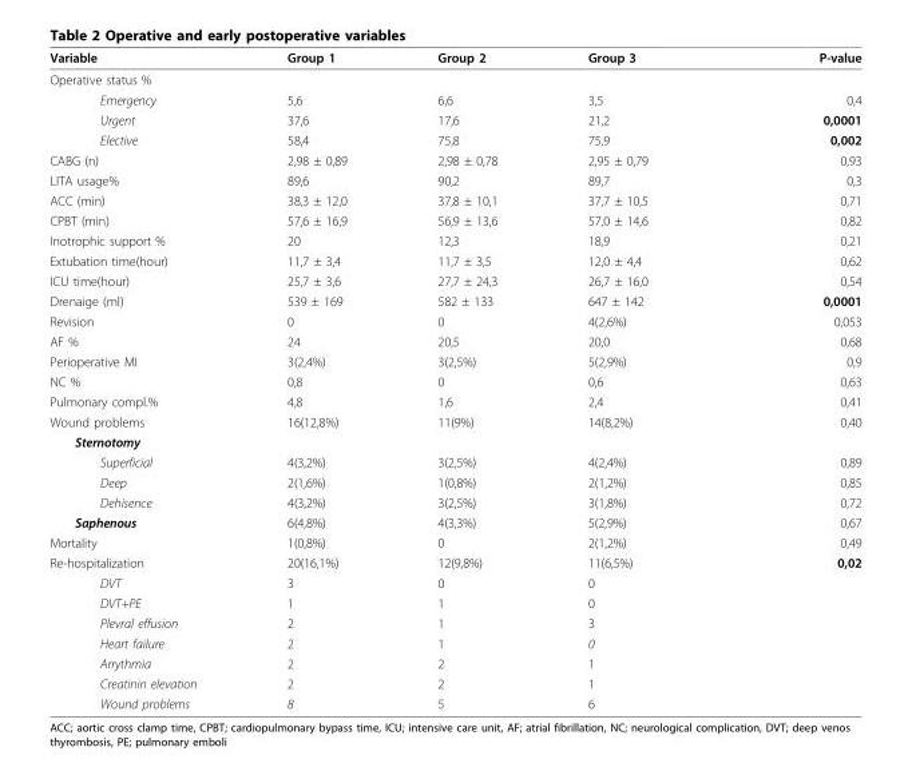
<table><thead><tr><td>Variable</td><td>Group 1</td><td>Group 2</td><td>Group 3</td><td>P-value</td></tr></thead><tbody><tr><td colspan="5">Operative status %</td></tr><tr><td>Emergency</td><td>5,6</td><td>6,6</td><td>3,5</td><td>0,4</td></tr><tr><td>Urgent</td><td>37,6</td><td>17,6</td><td>21,2</td><td>0,0001</td></tr><tr><td>Elective</td><td>58,4</td><td>75,8</td><td>75,9</td><td>0,002</td></tr><tr><td>CABG (n)</td><td>2,98 ± 0,89</td><td>2,98 ± 0,78</td><td>2,95 ± 0,79</td><td>0,93</td></tr><tr><td>LITA usage%</td><td>89,6</td><td>90,2</td><td>89,7</td><td>0,3</td></tr><tr><td>ACC (min)</td><td>38,3 ± 12,0</td><td>37,8 ± 10,1</td><td>37,7 ± 10,5</td><td>0,71</td></tr><tr><td>CPBT (min)</td><td>57,6 ± 16,9</td><td>56,9 ± 13,6</td><td>57,0 ± 14,6</td><td>0,82</td></tr><tr><td>Inotrophic support %</td><td>20</td><td>12,3</td><td>18,9</td><td>0,21</td></tr><tr><td>Extubation time(hour)</td><td>11,7 ± 3,4</td><td>11,7 ± 3,5</td><td>12,0 ± 4,4</td><td>0,62</td></tr><tr><td>ICU time(hour)</td><td>25,7 ± 3,6</td><td>27,7 ± 24,3</td><td>26,7 ± 16,0</td><td>0,54</td></tr><tr><td>Drenaige (ml)</td><td>539 ± 169</td><td>582 ± 133</td><td>647 ± 142</td><td>0,0001</td></tr><tr><td>Revision</td><td>0</td><td>0</td><td>4(2,6%)</td><td>0,053</td></tr><tr><td>AF %</td><td>24</td><td>20,5</td><td>20,0</td><td>0,68</td></tr><tr><td>Perioperative MI</td><td>3(2,4%)</td><td>3(2,5%)</td><td>5(2,9%)</td><td>0,9</td></tr><tr><td>NC %</td><td>0,8</td><td>0</td><td>0,6</td><td>0,63</td></tr><tr><td>Pulmonary compl.%</td><td>4,8</td><td>1,6</td><td>2,4</td><td>0,41</td></tr><tr><td>Wound problems</td><td>16(12,8%)</td><td>11(9%)</td><td>14(8,2%)</td><td>0,40</td></tr><tr><td colspan="5">Sternotomy</td></tr><tr><td>Superficial</td><td>4(3,2%)</td><td>3(2,5%)</td><td>4(2,4%)</td><td>0,89</td></tr><tr><td>Deep</td><td>2(1,6%)</td><td>1(0,8%)</td><td>2(1,2%)</td><td>0,85</td></tr><tr><td>Dehisence</td><td>4(3,2%)</td><td>3(2,5%)</td><td>3(1,8%)</td><td>0,72</td></tr><tr><td>Saphenous</td><td>6(4,8%)</td><td>4(3,3%)</td><td>5(2,9%)</td><td>0,67</td></tr><tr><td>Mortality</td><td>1(0,8%)</td><td>0</td><td>2(1,2%)</td><td>0,49</td></tr><tr><td>Re-hospitalization</td><td>20(16,1%)</td><td>12(9,8%)</td><td>11(6,5%)</td><td>0,02</td></tr><tr><td>DVT</td><td>3</td><td>0</td><td>0</td><td></td></tr><tr><td>DVT+PE</td><td>1</td><td>1</td><td>0</td><td></td></tr><tr><td>Plevral effusion</td><td>2</td><td>1</td><td>3</td><td></td></tr><tr><td>Heart failure</td><td>2</td><td>1</td><td>0</td><td></td></tr><tr><td>Arrythmia</td><td>2</td><td>2</td><td>1</td><td></td></tr><tr><td>Creatinin elevation</td><td>2</td><td>2</td><td>1</td><td></td></tr><tr><td>Wound problems</td><td>8</td><td>5</td><td>6</td><td></td></tr></tbody></table>